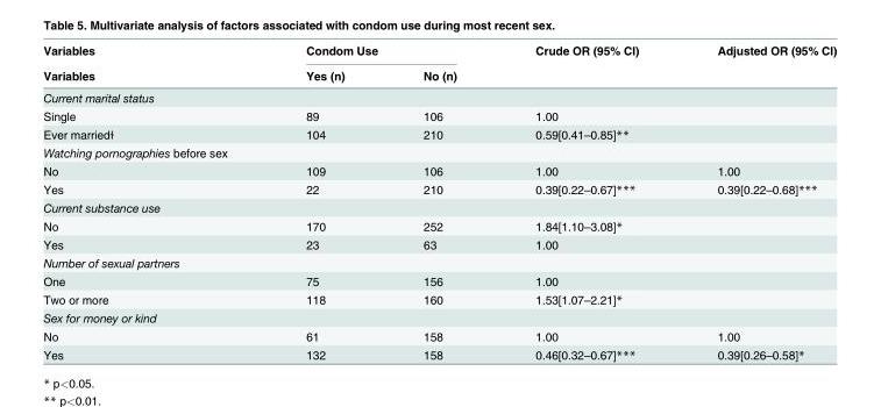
<table><thead><tr><td rowspan="2">Variables Variables</td><td colspan="2">Condom Use</td><td rowspan="2">Crude OR (95% CI)</td><td rowspan="2">Adjusted OR (95% CI)</td></tr><tr><td>Yes (n)</td><td>No (n)</td></tr></thead><tbody><tr><td colspan="5">Current marital status</td></tr><tr><td>Single</td><td>89</td><td>106</td><td>1.00</td><td></td></tr><tr><td>Ever married<sup>ɫ</sup></td><td>104</td><td>210</td><td>0.59[0.41–0.85]**</td><td></td></tr><tr><td colspan="5">Watching pornographies before sex</td></tr><tr><td>No</td><td>109</td><td>106</td><td>1.00</td><td>1.00</td></tr><tr><td>Yes</td><td>22</td><td>210</td><td>0.39[0.22–0.67]***</td><td>0.39[0.22–0.68]***</td></tr><tr><td colspan="5">Current substance use</td></tr><tr><td>No</td><td>170</td><td>252</td><td>1.84[1.10–3.08]*</td><td></td></tr><tr><td>Yes</td><td>23</td><td>63</td><td>1.00</td><td></td></tr><tr><td colspan="5">Number of sexual partners</td></tr><tr><td>One</td><td>75</td><td>156</td><td>1.00</td><td></td></tr><tr><td>Two or more</td><td>118</td><td>160</td><td>1.53[1.07–2.21]*</td><td></td></tr><tr><td colspan="5">Sex for money or kind</td></tr><tr><td>No</td><td>61</td><td>158</td><td>1.00</td><td>1.00</td></tr><tr><td>Yes</td><td>132</td><td>158</td><td>0.46[0.32–0.67]***</td><td>0.39[0.26–0.58]*</td></tr></tbody></table>